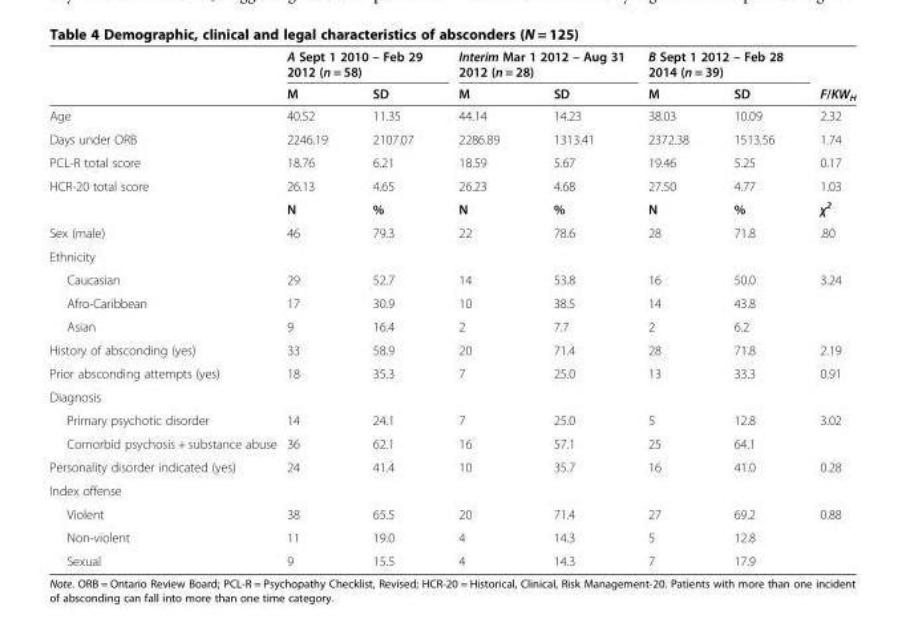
<table><thead><tr><td rowspan="2"></td><td colspan="2">A Sept 1 2010 – Feb 29 2012 (n = 58)</td><td colspan="2">Interim Mar 1 2012 – Aug 31 2012 (n = 28)</td><td colspan="2">B Sept 1 2012 – Feb 28 2014 (n = 39)</td><td rowspan="2">F/KW<sub>H</sub></td></tr><tr><td>M</td><td>SD</td><td>M</td><td>SD</td><td>M</td><td>SD</td></tr></thead><tbody><tr><td>Age</td><td>40.52</td><td>11.35</td><td>44.14</td><td>14.23</td><td>38.03</td><td>10.09</td><td>2.32</td></tr><tr><td>Days under ORB</td><td>2246.19</td><td>2107.07</td><td>2286.89</td><td>1313.41</td><td>2372.38</td><td>1513.56</td><td>1.74</td></tr><tr><td>PCL-R total score</td><td>18.76</td><td>6.21</td><td>18.59</td><td>5.67</td><td>19.46</td><td>5.25</td><td>0.17</td></tr><tr><td rowspan="2">HCR-20 total score</td><td>26.13</td><td>4.65</td><td>26.23</td><td>4.68</td><td>27.50</td><td>4.77</td><td>1.03</td></tr><tr><td>N</td><td>%</td><td>N</td><td>%</td><td>N</td><td>%</td><td>χ<sup>2</sup></td></tr><tr><td>Sex (male)</td><td>46</td><td>79.3</td><td>22</td><td>78.6</td><td>28</td><td>71.8</td><td>.80</td></tr><tr><td colspan="8">Ethnicity</td></tr><tr><td>Caucasian</td><td>29</td><td>52.7</td><td>14</td><td>53.8</td><td>16</td><td>50.0</td><td rowspan="3">3.24</td></tr><tr><td>Afro-Caribbean</td><td>17</td><td>30.9</td><td>10</td><td>38.5</td><td>14</td><td>43.8</td></tr><tr><td>Asian</td><td>9</td><td>16.4</td><td>2</td><td>7.7</td><td>2</td><td>6.2</td></tr><tr><td>History of absconding (yes)</td><td>33</td><td>58.9</td><td>20</td><td>71.4</td><td>28</td><td>71.8</td><td>2.19</td></tr><tr><td>Prior absconding attempts (yes)</td><td>18</td><td>35.3</td><td>7</td><td>25.0</td><td>13</td><td>33.3</td><td>0.91</td></tr><tr><td colspan="8">Diagnosis</td></tr><tr><td>Primary psychotic disorder</td><td>14</td><td>24.1</td><td>7</td><td>25.0</td><td>5</td><td>12.8</td><td rowspan="2">3.02</td></tr><tr><td>Comorbid psychosis + substance abuse</td><td>36</td><td>62.1</td><td>16</td><td>57.1</td><td>25</td><td>64.1</td></tr><tr><td>Personality disorder indicated (yes)</td><td>24</td><td>41.4</td><td>10</td><td>35.7</td><td>16</td><td>41.0</td><td>0.28</td></tr><tr><td colspan="8">Index offense</td></tr><tr><td>Violent</td><td>38</td><td>65.5</td><td>20</td><td>71.4</td><td>27</td><td>69.2</td><td rowspan="3">0.88</td></tr><tr><td>Non-violent</td><td>11</td><td>19.0</td><td>4</td><td>14.3</td><td>5</td><td>12.8</td></tr><tr><td>Sexual</td><td>9</td><td>15.5</td><td>4</td><td>14.3</td><td>7</td><td>17.9</td></tr></tbody></table>